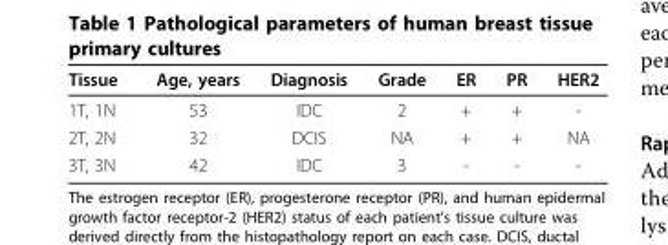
<table><thead><tr><td>Tissue</td><td>Age, years</td><td>Diagnosis</td><td>Grade</td><td>ER</td><td>PR</td><td>HER2</td></tr></thead><tbody><tr><td>1T, 1N</td><td>53</td><td>IDC</td><td>2</td><td>+</td><td>+</td><td>-</td></tr><tr><td>2T, 2N</td><td>32</td><td>DCIS</td><td>NA</td><td>+</td><td>+</td><td>NA</td></tr><tr><td>3T, 3N</td><td>42</td><td>IDC</td><td>3</td><td>-</td><td>-</td><td>-</td></tr></tbody></table>